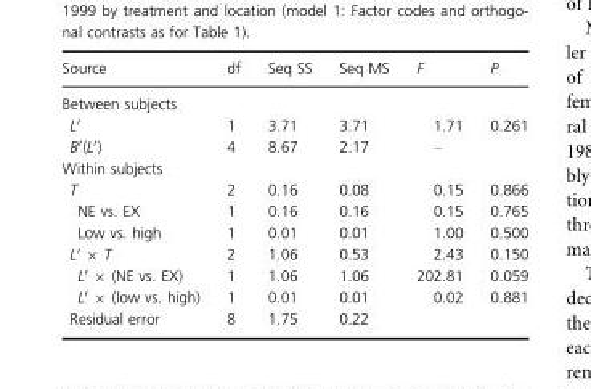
<table><thead><tr><td>Source</td><td>df</td><td>Seq SS</td><td>Seq MS</td><td>F</td><td>P</td></tr></thead><tbody><tr><td colspan="6">Between subjects</td></tr><tr><td>L′</td><td>1</td><td>3.71</td><td>3.71</td><td>1.71</td><td>0.261</td></tr><tr><td>B′(L′)</td><td>4</td><td>8.67</td><td>2.17</td><td>–</td><td></td></tr><tr><td colspan="6">Within subjects</td></tr><tr><td>T</td><td>2</td><td>0.16</td><td>0.08</td><td>0.15</td><td>0.866</td></tr><tr><td>NE vs. EX</td><td>1</td><td>0.16</td><td>0.16</td><td>0.15</td><td>0.765</td></tr><tr><td>Low vs. high</td><td>1</td><td>0.01</td><td>0.01</td><td>1.00</td><td>0.500</td></tr><tr><td>L′ × T</td><td>2</td><td>1.06</td><td>0.53</td><td>2.43</td><td>0.150</td></tr><tr><td>L′ × (NE vs. EX)</td><td>1</td><td>1.06</td><td>1.06</td><td>202.81</td><td>0.059</td></tr><tr><td>L′ × (low vs. high)</td><td>1</td><td>0.01</td><td>0.01</td><td>0.02</td><td>0.881</td></tr><tr><td>Residual error</td><td>8</td><td>1.75</td><td>0.22</td><td></td><td></td></tr></tbody></table>